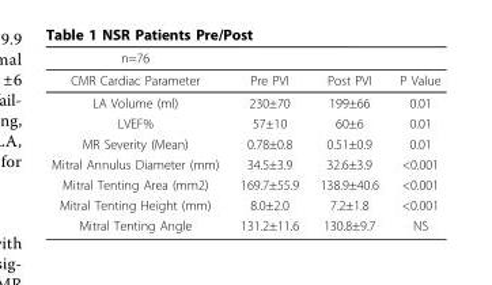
<table><thead><tr><td>n=76</td><td></td><td></td><td></td></tr></thead><tbody><tr><td>CMR Cardiac Parameter</td><td>Pre PVI</td><td>Post PVI</td><td>P Value</td></tr><tr><td>LA Volume (ml)</td><td>230±70</td><td>199±66</td><td>0.01</td></tr><tr><td>LVEF%</td><td>57±10</td><td>60±6</td><td>0.01</td></tr><tr><td>MR Severity (Mean)</td><td>0.78±0.8</td><td>0.51±0.9</td><td>0.01</td></tr><tr><td>Mitral Annulus Diameter (mm)</td><td>34.5±3.9</td><td>32.6±3.9</td><td>&lt;0.001</td></tr><tr><td>Mitral Tenting Area (mm2)</td><td>169.7±55.9</td><td>138.9±40.6</td><td>&lt;0.001</td></tr><tr><td>Mitral Tenting Height (mm)</td><td>8.0±2.0</td><td>7.2±1.8</td><td>&lt;0.001</td></tr><tr><td>Mitral Tenting Angle</td><td>131.2±11.6</td><td>130.8±9.7</td><td>NS</td></tr></tbody></table>